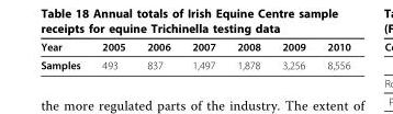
<table><thead><tr><td>Year</td><td>2005</td><td>2006</td><td>2007</td><td>2008</td><td>2009</td><td>2010</td></tr></thead><tbody><tr><td>Samples</td><td>493</td><td>837</td><td>1,497</td><td>1,878</td><td>3,256</td><td>8,556</td></tr></tbody></table>